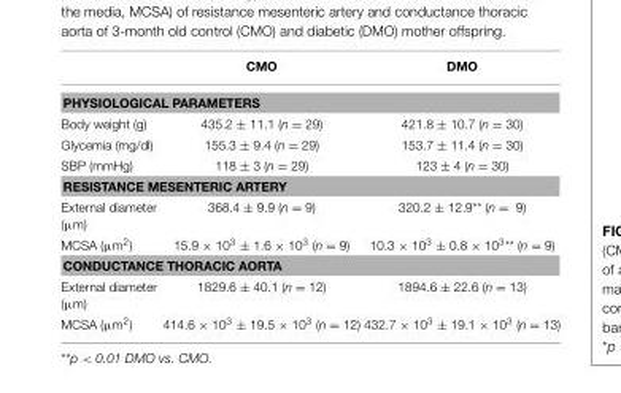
<table><thead><tr><td></td><td>CMO</td><td>DMO</td></tr></thead><tbody><tr><td colspan="3">PHYSIOLOGICAL PARAMETERS</td></tr><tr><td>Body weight (g)</td><td>435.2 ± 11.1 (n = 29)</td><td>421.8 ± 10.7 (n = 30)</td></tr><tr><td>Glycemia (mg/dl)</td><td>155.3 ± 9.4 (n = 29)</td><td>153.7 ± 11.4 (n = 30)</td></tr><tr><td>SBP (mmHg)</td><td>118 ± 3 (n = 29)</td><td>123 ± 4 (n = 30)</td></tr><tr><td colspan="3">RESISTANCE MESENTERIC ARTERY</td></tr><tr><td>External diameter (µm)</td><td>368.4 ± 9.9 (n = 9)</td><td>320.2 ± 12.9** (n = 9)</td></tr><tr><td>MCSA (µm<sup>2</sup>)</td><td>15.9 × 10<sup>3</sup> ± 1.6 × 10<sup>3</sup> (n = 9)</td><td>10.3 × 10<sup>3</sup> ± 0.8 × 10<sup>3**</sup> (n = 9)</td></tr><tr><td colspan="3">CONDUCTANCE THORACIC AORTA</td></tr><tr><td>External diameter (µm)</td><td>1829.6 ± 40.1 (n = 12)</td><td>1894.6 ± 22.6 (n = 13)</td></tr><tr><td>MCSA (µm<sup>2</sup>)</td><td>414.6 × 10<sup>3</sup> ± 19.5 × 10<sup>3</sup> (n = 12)</td><td>432.7 × 10<sup>3</sup> ± 19.1 × 10<sup>3</sup> (n = 13)</td></tr></tbody></table>